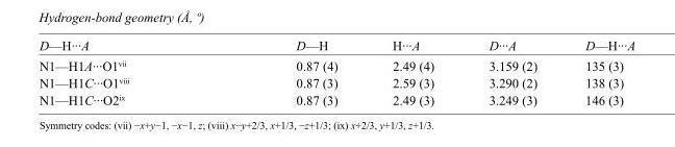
<table><tbody><tr><td>D—H···A</td><td>D—H</td><td>H···A</td><td>D···A</td><td>D—H···A</td></tr><tr><td>N1—H1A···O1<sup>vii</sup></td><td>0.87 (4)</td><td>2.49 (4)</td><td>3.159 (2)</td><td>135 (3)</td></tr><tr><td>N1—H1C···O1<sup>viii</sup></td><td>0.87 (3)</td><td>2.59 (3)</td><td>3.290 (2)</td><td>138 (3)</td></tr><tr><td>N1—H1C···O2<sup>ix</sup></td><td>0.87 (3)</td><td>2.49 (3)</td><td>3.249 (3)</td><td>146 (3)</td></tr></tbody></table>